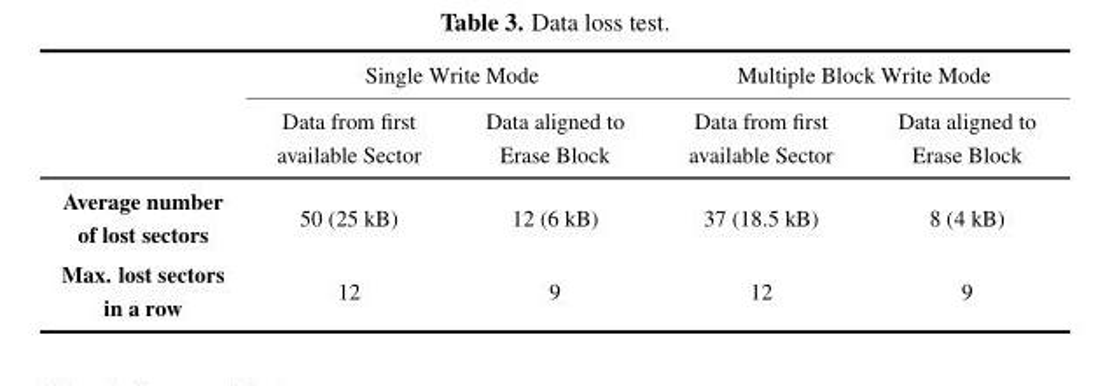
<table><thead><tr><td rowspan="2"></td><td colspan="2">Single Write Mode</td><td colspan="2">Multiple Block Write Mode</td></tr><tr><td>Data from first available Sector</td><td>Data aligned to Erase Block</td><td>Data from first available Sector</td><td>Data aligned to Erase Block</td></tr></thead><tbody><tr><td>Average number of lost sectors</td><td>50 (25 kB)</td><td>12 (6 kB)</td><td>37 (18.5 kB)</td><td>8 (4 kB)</td></tr><tr><td>Max. lost sectors in a row</td><td>12</td><td>9</td><td>12</td><td>9</td></tr></tbody></table>